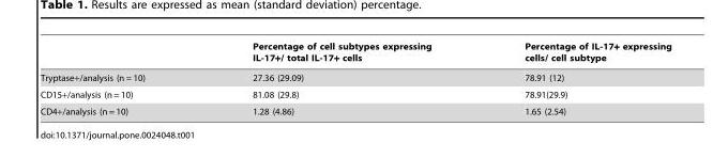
<table><thead><tr><td></td><td>Percentage of cell subtypes expressing IL-17+/ total IL-17+ cells</td><td>Percentage of IL-17+ expressing cells/ cell subtype</td></tr></thead><tbody><tr><td>Tryptase+/analysis (n = 10)</td><td>27.36 (29.09)</td><td>78.91 (12)</td></tr><tr><td>CD15+/analysis (n = 10)</td><td>81.08 (29.8)</td><td>78.91(29.9)</td></tr><tr><td>CD4+/analysis (n = 10)</td><td>1.28 (4.86)</td><td>1.65 (2.54)</td></tr></tbody></table>